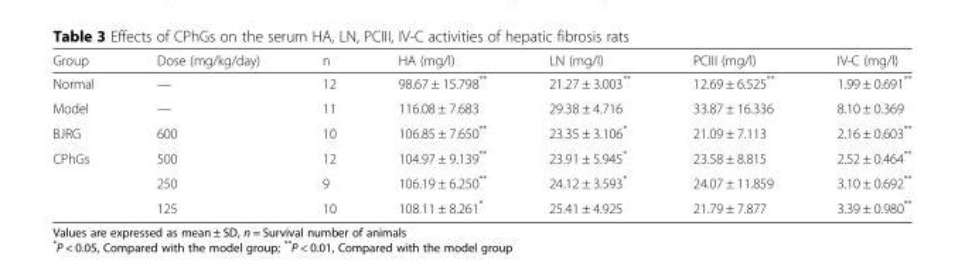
<table><thead><tr><td>Group</td><td>Dose (mg/kg/day)</td><td>n</td><td>HA (mg/l)</td><td>LN (mg/l)</td><td>PCIII (mg/l)</td><td>IV-C (mg/l)</td></tr></thead><tbody><tr><td>Normal</td><td>—</td><td>12</td><td>98.67 ± 15.798**</td><td>21.27 ± 3.003**</td><td>12.69 ± 6.525**</td><td>1.99 ± 0.691**</td></tr><tr><td>Model</td><td>—</td><td>11</td><td>116.08 ± 7.683</td><td>29.38 ± 4.716</td><td>33.87 ± 16.336</td><td>8.10 ± 0.369</td></tr><tr><td>BJRG</td><td>600</td><td>10</td><td>106.85 ± 7.650**</td><td>23.35 ± 3.106*</td><td>21.09 ± 7.113</td><td>2.16 ± 0.603**</td></tr><tr><td rowspan="3">CPhGs</td><td>500</td><td>12</td><td>104.97 ± 9.139**</td><td>23.91 ± 5.945*</td><td>23.58 ± 8.815</td><td>2.52 ± 0.464**</td></tr><tr><td>250</td><td>9</td><td>106.19 ± 6.250**</td><td>24.12 ± 3.593*</td><td>24.07 ± 11.859</td><td>3.10 ± 0.692**</td></tr><tr><td>125</td><td>10</td><td>108.11 ± 8.261*</td><td>25.41 ± 4.925</td><td>21.79 ± 7.877</td><td>3.39 ± 0.980**</td></tr></tbody></table>